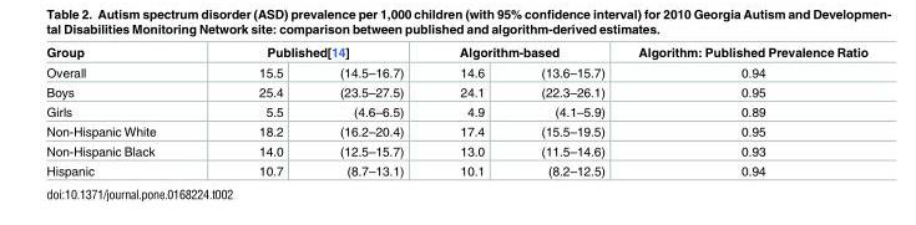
<table><thead><tr><td rowspan="2">Group Overall</td><td colspan="2">Published[14]</td><td colspan="2">Algorithm-based</td><td rowspan="2">Algorithm: Published Prevalence Ratio 0.94</td></tr><tr><td>15.5</td><td>(14.5–16.7)</td><td>14.6</td><td>(13.6–15.7)</td></tr></thead><tbody><tr><td>Boys</td><td>25.4</td><td>(23.5–27.5)</td><td>24.1</td><td>(22.3–26.1)</td><td>0.95</td></tr><tr><td>Girls</td><td>5.5</td><td>(4.6–6.5)</td><td>4.9</td><td>(4.1–5.9)</td><td>0.89</td></tr><tr><td>Non-Hispanic White</td><td>18.2</td><td>(16.2–20.4)</td><td>17.4</td><td>(15.5–19.5)</td><td>0.95</td></tr><tr><td>Non-Hispanic Black</td><td>14.0</td><td>(12.5–15.7)</td><td>13.0</td><td>(11.5–14.6)</td><td>0.93</td></tr><tr><td>Hispanic</td><td>10.7</td><td>(8.7–13.1)</td><td>10.1</td><td>(8.2–12.5)</td><td>0.94</td></tr></tbody></table>